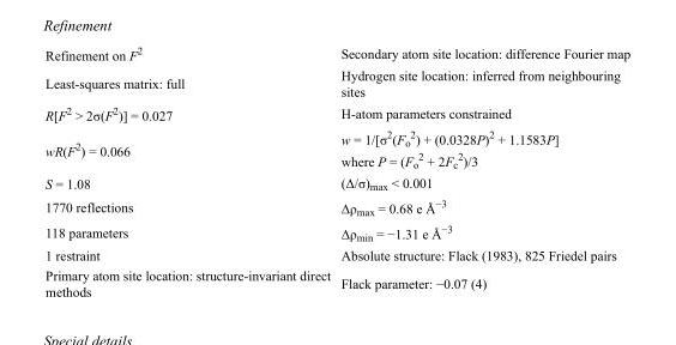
<table><tbody><tr><td>Refinement on F<sup>2</sup></td><td>Secondary atom site location: difference Fourier map</td></tr><tr><td>Least-squares matrix: full</td><td>Hydrogen site location: inferred from neighbouring sites</td></tr><tr><td>R[F<sup>2</sup> &gt; 2σ(F<sup>2</sup>)] = 0.027</td><td>H-atom parameters constrained</td></tr><tr><td>wR(F<sup>2</sup>) = 0.066</td><td>w = 1/[σ<sup>2</sup>(F<sub>o</sub> <sup>2</sup>) + (0.0328P)<sup>2</sup> + 1.1583P] where P = (F<sub>o</sub> <sup>2</sup> + 2F<sub>c</sub> <sup>2</sup>)/3</td></tr><tr><td>S = 1.08</td><td>(Δ/σ)<sub>max</sub> &lt; 0.001</td></tr><tr><td>1770 reflections</td><td>Δρ<sub>max</sub> = 0.68 e Å<sup>−3</sup></td></tr><tr><td>118 parameters</td><td>Δρ<sub>min</sub> = −1.31 e Å<sup>−3</sup></td></tr><tr><td>1 restraint</td><td>Absolute structure: Flack (1983), 825 Friedel pairs</td></tr><tr><td>Primary atom site location: structure-invariant direct methods</td><td>Flack parameter: −0.07 (4)</td></tr></tbody></table>